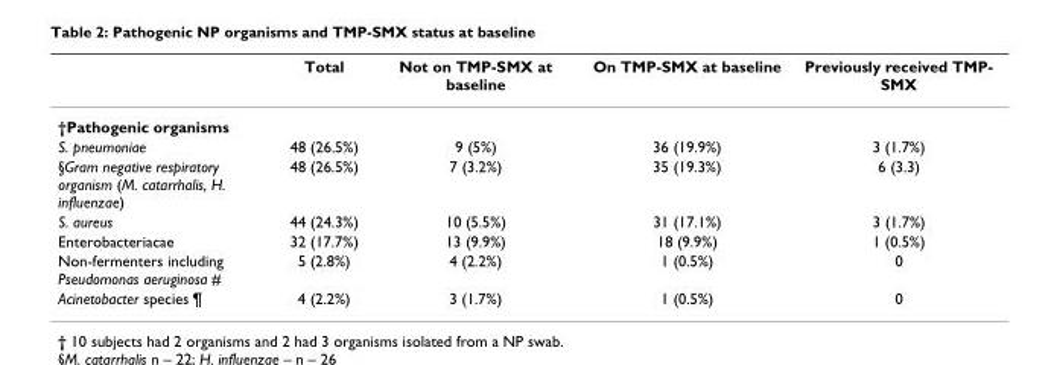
<table><thead><tr><td></td><td>Total</td><td>Not on TMP-SMX at baseline</td><td>On TMP-SMX at baseline</td><td>Previously received TMP- SMX</td></tr></thead><tbody><tr><td colspan="5">†Pathogenic organisms</td></tr><tr><td>S. pneumoniae</td><td>48 (26.5%)</td><td>9 (5%)</td><td>36 (19.9%)</td><td>3 (1.7%)</td></tr><tr><td>§Gram negative respiratory organism (M. catarrhalis, H. influenzae)</td><td>48 (26.5%)</td><td>7 (3.2%)</td><td>35 (19.3%)</td><td>6 (3.3)</td></tr><tr><td>S. aureus</td><td>44 (24.3%)</td><td>10 (5.5%)</td><td>31 (17.1%)</td><td>3 (1.7%)</td></tr><tr><td>Enterobacteriacae</td><td>32 (17.7%)</td><td>13 (9.9%)</td><td>18 (9.9%)</td><td>1 (0.5%)</td></tr><tr><td>Non-fermenters including Pseudomonas aeruginosa #</td><td>5 (2.8%)</td><td>4 (2.2%)</td><td>1 (0.5%)</td><td>0</td></tr><tr><td>Acinetobacter species ¶</td><td>4 (2.2%)</td><td>3 (1.7%)</td><td>1 (0.5%)</td><td>0</td></tr></tbody></table>